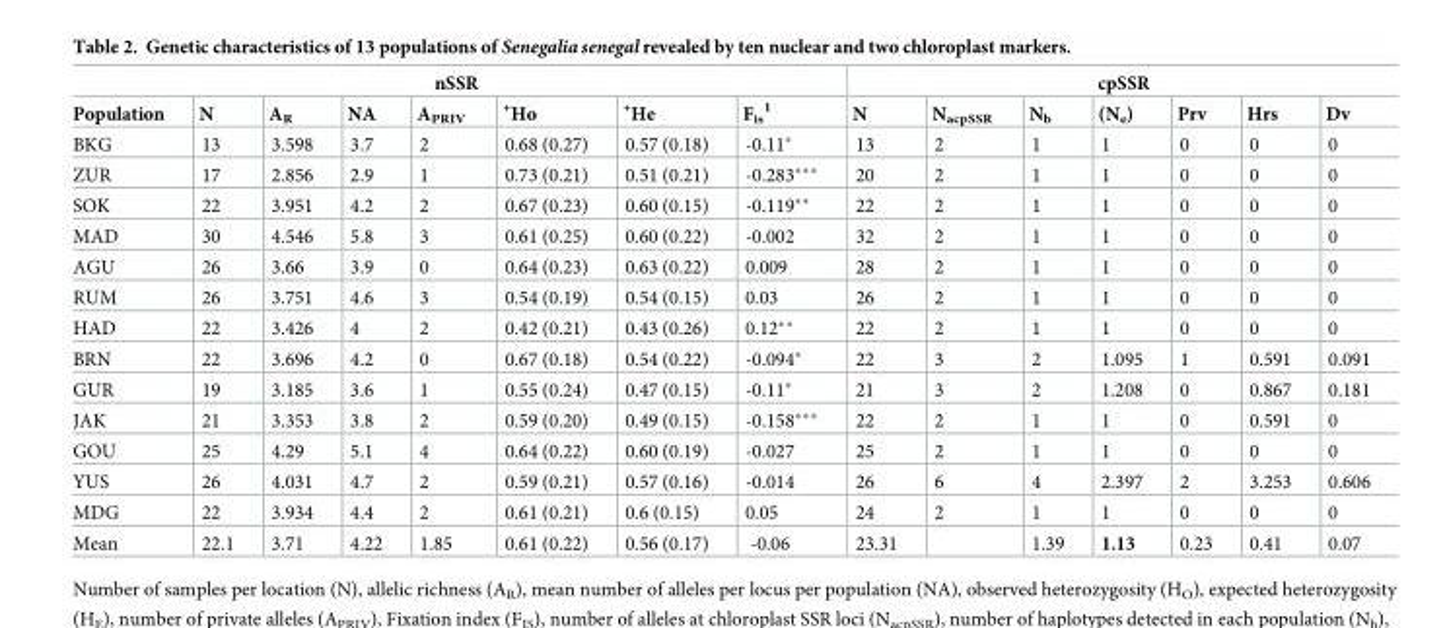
<table><thead><tr><td colspan="8">nSSR</td><td colspan="7">cpSSR</td></tr><tr><td>Population</td><td>N</td><td>A<sub>R</sub></td><td>NA</td><td>A<sub>PRIV</sub></td><td><sup>+</sup>Ho</td><td><sup>+</sup>He</td><td>F<sub>is</sub> <sup>1</sup></td><td>N</td><td>N<sub>acpSSR</sub></td><td>N<sub>b</sub></td><td>(N<sub>e</sub>)</td><td>Prv</td><td>Hrs</td><td>Dv</td></tr></thead><tbody><tr><td>BKG</td><td>13</td><td>3.598</td><td>3.7</td><td>2</td><td>0.68 (0.27)</td><td>0.57 (0.18)</td><td>-0.11*</td><td>13</td><td>2</td><td>1</td><td>1</td><td>0</td><td>0</td><td>0</td></tr><tr><td>ZUR</td><td>17</td><td>2.856</td><td>2.9</td><td>1</td><td>0.73 (0.21)</td><td>0.51 (0.21)</td><td>-0.283***</td><td>20</td><td>2</td><td>1</td><td>1</td><td>0</td><td>0</td><td>0</td></tr><tr><td>SOK</td><td>22</td><td>3.951</td><td>4.2</td><td>2</td><td>0.67 (0.23)</td><td>0.60 (0.15)</td><td>-0.119**</td><td>22</td><td>2</td><td>1</td><td>1</td><td>0</td><td>0</td><td>0</td></tr><tr><td>MAD</td><td>30</td><td>4.546</td><td>5.8</td><td>3</td><td>0.61 (0.25)</td><td>0.60 (0.22)</td><td>-0.002</td><td>32</td><td>2</td><td>1</td><td>1</td><td>0</td><td>0</td><td>0</td></tr><tr><td>AGU</td><td>26</td><td>3.66</td><td>3.9</td><td>0</td><td>0.64 (0.23)</td><td>0.63 (0.22)</td><td>0.009</td><td>28</td><td>2</td><td>1</td><td>1</td><td>0</td><td>0</td><td>0</td></tr><tr><td>RUM</td><td>26</td><td>3.751</td><td>4.6</td><td>3</td><td>0.54 (0.19)</td><td>0.54 (0.15)</td><td>0.03</td><td>26</td><td>2</td><td>1</td><td>1</td><td>0</td><td>0</td><td>0</td></tr><tr><td>HAD</td><td>22</td><td>3.426</td><td>4</td><td>2</td><td>0.42 (0.21)</td><td>0.43 (0.26)</td><td>0.12**</td><td>22</td><td>2</td><td>1</td><td>1</td><td>0</td><td>0</td><td>0</td></tr><tr><td>BRN</td><td>22</td><td>3.696</td><td>4.2</td><td>0</td><td>0.67 (0.18)</td><td>0.54 (0.22)</td><td>-0.094*</td><td>22</td><td>3</td><td>2</td><td>1.095</td><td>1</td><td>0.591</td><td>0.091</td></tr><tr><td>GUR</td><td>19</td><td>3.185</td><td>3.6</td><td>1</td><td>0.55 (0.24)</td><td>0.47 (0.15)</td><td>-0.11*</td><td>21</td><td>3</td><td>2</td><td>1.208</td><td>0</td><td>0.867</td><td>0.181</td></tr><tr><td>JAK</td><td>21</td><td>3.353</td><td>3.8</td><td>2</td><td>0.59 (0.20)</td><td>0.49 (0.15)</td><td>-0.158***</td><td>22</td><td>2</td><td>1</td><td>1</td><td>0</td><td>0.591</td><td>0</td></tr><tr><td>GOU</td><td>25</td><td>4.29</td><td>5.1</td><td>4</td><td>0.64 (0.22)</td><td>0.60 (0.19)</td><td>-0.027</td><td>25</td><td>2</td><td>1</td><td>1</td><td>0</td><td>0</td><td>0</td></tr><tr><td>YUS</td><td>26</td><td>4.031</td><td>4.7</td><td>2</td><td>0.59 (0.21)</td><td>0.57 (0.16)</td><td>-0.014</td><td>26</td><td>6</td><td>4</td><td>2.397</td><td>2</td><td>3.253</td><td>0.606</td></tr><tr><td>MDG</td><td>22</td><td>3.934</td><td>4.4</td><td>2</td><td>0.61 (0.21)</td><td>0.6 (0.15)</td><td>0.05</td><td>24</td><td>2</td><td>1</td><td>1</td><td>0</td><td>0</td><td>0</td></tr><tr><td>Mean</td><td>22.1</td><td>3.71</td><td>4.22</td><td>1.85</td><td>0.61 (0.22)</td><td>0.56 (0.17)</td><td>-0.06</td><td>23.31</td><td></td><td>1.39</td><td>1.13</td><td>0.23</td><td>0.41</td><td>0.07</td></tr></tbody></table>